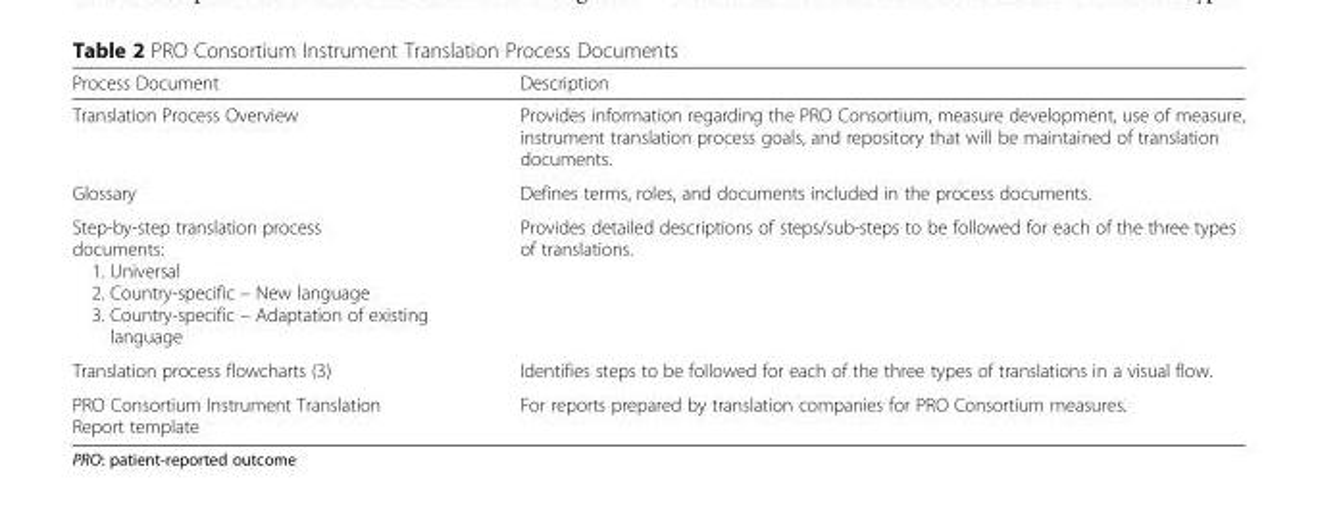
<table><thead><tr><td>Process Document</td><td>Description</td></tr></thead><tbody><tr><td>Translation Process Overview</td><td>Provides information regarding the PRO Consortium, measure development, use of measure, instrument translation process goals, and repository that will be maintained of translation documents.</td></tr><tr><td>Glossary</td><td>Defines terms, roles, and documents included in the process documents.</td></tr><tr><td>Step-by-step translation process documents: 1. Universal 2. Country-specific – New language 3. Country-specific – Adaptation of existing language</td><td>Provides detailed descriptions of steps/sub-steps to be followed for each of the three types of translations.</td></tr><tr><td>Translation process flowcharts (3)</td><td>Identifies steps to be followed for each of the three types of translations in a visual flow.</td></tr><tr><td>PRO Consortium Instrument Translation Report template</td><td>For reports prepared by translation companies for PRO Consortium measures.</td></tr></tbody></table>